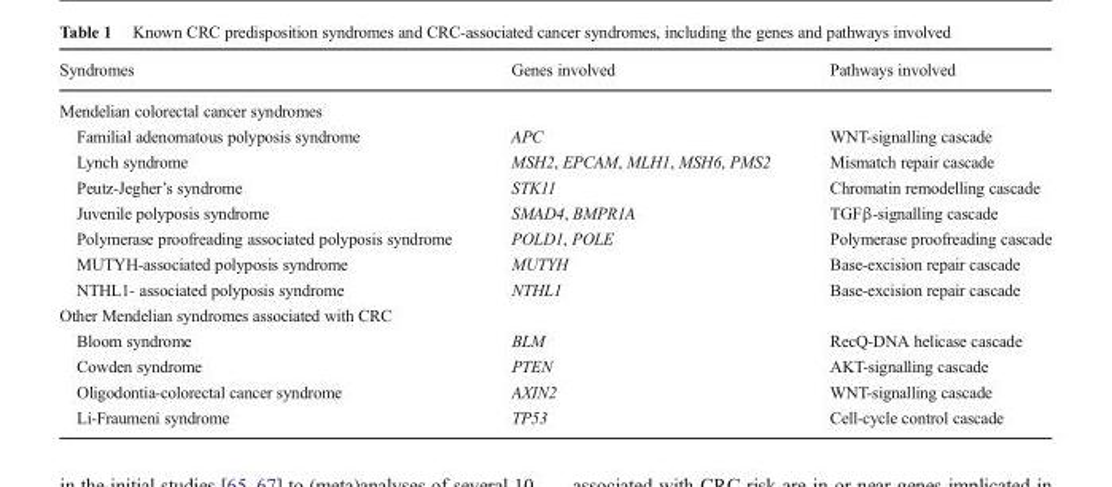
<table><thead><tr><td>Syndromes</td><td>Genes involved</td><td>Pathways involved</td></tr></thead><tbody><tr><td colspan="3">Mendelian colorectal cancer syndromes</td></tr><tr><td>Familial adenomatous polyposis syndrome</td><td>APC</td><td>WNT-signalling cascade</td></tr><tr><td>Lynch syndrome</td><td>MSH2, EPCAM, MLH1, MSH6, PMS2</td><td>Mismatch repair cascade</td></tr><tr><td>Peutz-Jegher’s syndrome</td><td>STK11</td><td>Chromatin remodelling cascade</td></tr><tr><td>Juvenile polyposis syndrome</td><td>SMAD4, BMPR1A</td><td>TGFβ-signalling cascade</td></tr><tr><td>Polymerase proofreading associated polyposis syndrome</td><td>POLD1, POLE</td><td>Polymerase proofreading cascade</td></tr><tr><td>MUTYH-associated polyposis syndrome</td><td>MUTYH</td><td>Base-excision repair cascade</td></tr><tr><td>NTHL1- associated polyposis syndrome</td><td>NTHL1</td><td>Base-excision repair cascade</td></tr><tr><td colspan="3">Other Mendelian syndromes associated with CRC</td></tr><tr><td>Bloom syndrome</td><td>BLM</td><td>RecQ-DNA helicase cascade</td></tr><tr><td>Cowden syndrome</td><td>PTEN</td><td>AKT-signalling cascade</td></tr><tr><td>Oligodontia-colorectal cancer syndrome</td><td>AXIN2</td><td>WNT-signalling cascade</td></tr><tr><td>Li-Fraumeni syndrome</td><td>TP53</td><td>Cell-cycle control cascade</td></tr></tbody></table>